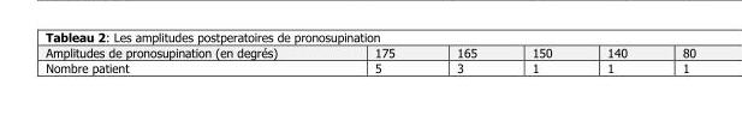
<table><tbody><tr><td>Amplitudes de pronosupination (en degrés)</td><td>175</td><td>165</td><td>150</td><td>140</td><td>80</td></tr><tr><td>Nombre patient</td><td>5</td><td>3</td><td>1</td><td>1</td><td>1</td></tr></tbody></table>